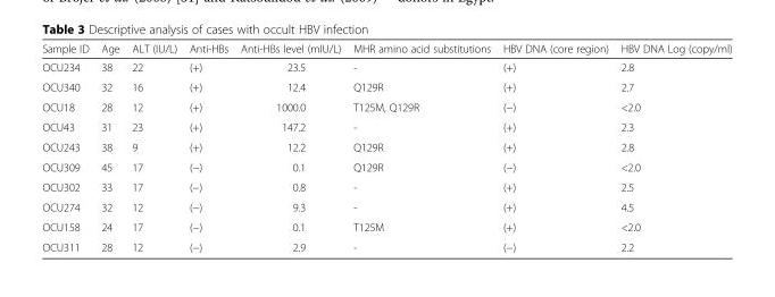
<table><thead><tr><td>Sample ID</td><td>Age</td><td>ALT (IU/L)</td><td>Anti-HBs</td><td>Anti-HBs level (mIU/L)</td><td>MHR amino acid substitutions</td><td>HBV DNA (core region)</td><td>HBV DNA Log (copy/ml)</td></tr></thead><tbody><tr><td>OCU234</td><td>38</td><td>22</td><td>(+)</td><td>23.5</td><td>-</td><td>(+)</td><td>2.8</td></tr><tr><td>OCU340</td><td>32</td><td>16</td><td>(+)</td><td>12.4</td><td>Q129R</td><td>(+)</td><td>2.7</td></tr><tr><td>OCU18</td><td>28</td><td>12</td><td>(+)</td><td>1000.0</td><td>T125M, Q129R</td><td>(−)</td><td>&lt;2.0</td></tr><tr><td>OCU43</td><td>31</td><td>23</td><td>(+)</td><td>147.2</td><td>-</td><td>(+)</td><td>2.3</td></tr><tr><td>OCU243</td><td>38</td><td>9</td><td>(+)</td><td>12.2</td><td>Q129R</td><td>(+)</td><td>2.8</td></tr><tr><td>OCU309</td><td>45</td><td>17</td><td>(−)</td><td>0.1</td><td>Q129R</td><td>(−)</td><td>&lt;2.0</td></tr><tr><td>OCU302</td><td>33</td><td>17</td><td>(−)</td><td>0.8</td><td>-</td><td>(+)</td><td>2.5</td></tr><tr><td>OCU274</td><td>32</td><td>12</td><td>(−)</td><td>9.3</td><td>-</td><td>(+)</td><td>4.5</td></tr><tr><td>OCU158</td><td>24</td><td>17</td><td>(−)</td><td>0.1</td><td>T125M</td><td>(+)</td><td>&lt;2.0</td></tr><tr><td>OCU311</td><td>28</td><td>12</td><td>(−)</td><td>2.9</td><td>-</td><td>(−)</td><td>2.2</td></tr></tbody></table>